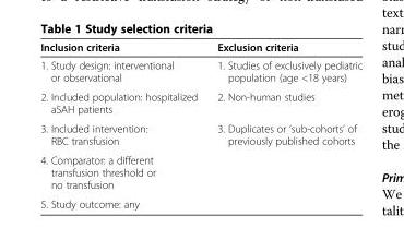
<table><thead><tr><td>Inclusion criteria</td><td>Exclusion criteria</td></tr></thead><tbody><tr><td>1. Study design: interventional or observational</td><td>1. Studies of exclusively pediatric population (age &lt;18 years)</td></tr><tr><td>2. Included population: hospitalized aSAH patients</td><td>2. Non-human studies</td></tr><tr><td>3. Included intervention: RBC transfusion</td><td>3. Duplicates or ‘sub-cohorts’ of previously published cohorts</td></tr><tr><td colspan="2">4. Comparator: a different transfusion threshold or no transfusion</td></tr><tr><td>5. Study outcome: any</td><td></td></tr></tbody></table>